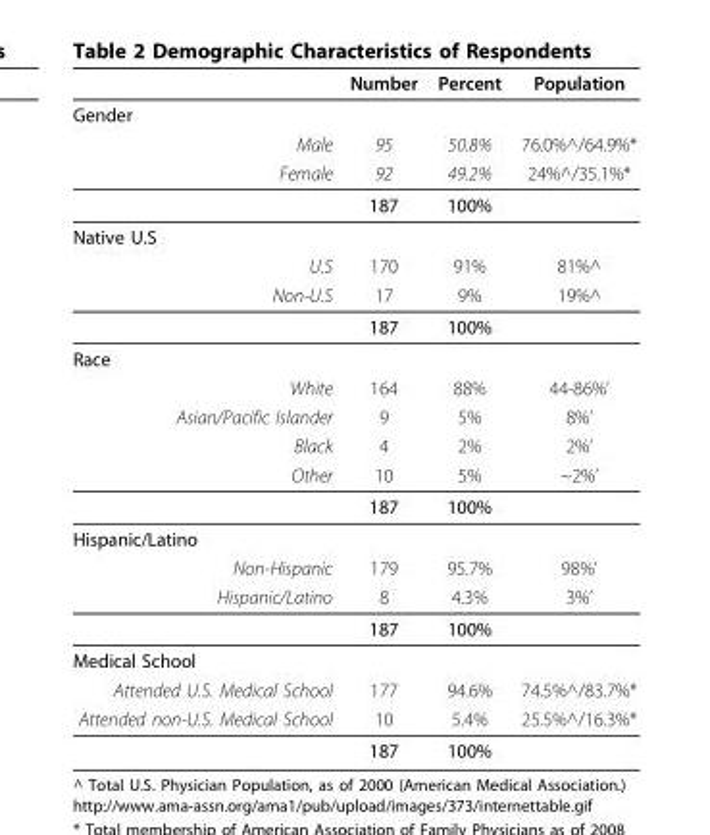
<table><thead><tr><td></td><td>Number</td><td>Percent</td><td>Population</td></tr></thead><tbody><tr><td colspan="4">Gender</td></tr><tr><td>Male</td><td>95</td><td>50.8%</td><td>76.0%^/64.9%*</td></tr><tr><td rowspan="2">Female</td><td>92</td><td>49.2%</td><td>24%^/35.1%*</td></tr><tr><td>187</td><td>100%</td><td></td></tr><tr><td colspan="4">Native U.S</td></tr><tr><td>U.S</td><td>170</td><td>91%</td><td>81%^</td></tr><tr><td rowspan="2">Non-U.S</td><td>17</td><td>9%</td><td>19%^</td></tr><tr><td>187</td><td>100%</td><td></td></tr><tr><td colspan="4">Race</td></tr><tr><td>White</td><td>164</td><td>88%</td><td>44-86%’</td></tr><tr><td>Asian/Pacific Islander</td><td>9</td><td>5%</td><td>8%’</td></tr><tr><td>Black</td><td>4</td><td>2%</td><td>2%’</td></tr><tr><td rowspan="2">Other</td><td>10</td><td>5%</td><td>~2%’</td></tr><tr><td>187</td><td>100%</td><td></td></tr><tr><td colspan="4">Hispanic/Latino</td></tr><tr><td>Non-Hispanic</td><td>179</td><td>95.7%</td><td>98%’</td></tr><tr><td rowspan="2">Hispanic/Latino</td><td>8</td><td>4.3%</td><td>3%’</td></tr><tr><td>187</td><td>100%</td><td></td></tr><tr><td colspan="4">Medical School</td></tr><tr><td>Attended U.S. Medical School</td><td>177</td><td>94.6%</td><td>74.5%^/83.7%*</td></tr><tr><td rowspan="2">Attended non-U.S. Medical School</td><td>10</td><td>5.4%</td><td>25.5%^/16.3%*</td></tr><tr><td>187</td><td>100%</td><td></td></tr></tbody></table>